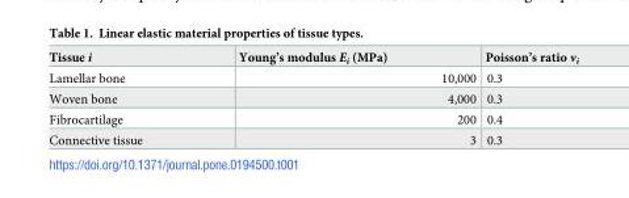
<table><thead><tr><td>Tissue i</td><td>Young’s modulus E<sub>i</sub> (MPa)</td><td>Poisson’s ratio ν<sub>i</sub></td></tr></thead><tbody><tr><td>Lamellar bone</td><td>10,000</td><td>0.3</td></tr><tr><td>Woven bone</td><td>4,000</td><td>0.3</td></tr><tr><td>Fibrocartilage</td><td>200</td><td>0.4</td></tr><tr><td>Connective tissue</td><td>3</td><td>0.3</td></tr></tbody></table>